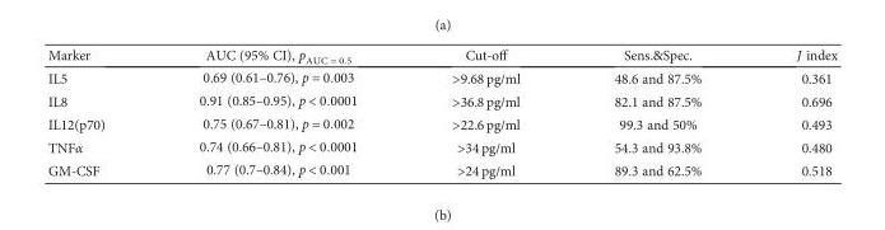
<table><thead><tr><td>Marker</td><td>AUC (95% CI), p<sub>AUC = 0.5</sub></td><td>Cut-off</td><td>Sens.&amp;Spec.</td><td>J index</td></tr></thead><tbody><tr><td>IL5</td><td>0.69 (0.61–0.76), p = 0 003</td><td>&gt;9.68 pg/ml</td><td>48.6 and 87.5%</td><td>0.361</td></tr><tr><td>IL8</td><td>0.91 (0.85–0.95), p &lt; 0 0001</td><td>&gt;36.8 pg/ml</td><td>82.1 and 87.5%</td><td>0.696</td></tr><tr><td>IL12(p70)</td><td>0.75 (0.67–0.81), p = 0 002</td><td>&gt;22.6 pg/ml</td><td>99.3 and 50%</td><td>0.493</td></tr><tr><td>TNFα</td><td>0.74 (0.66–0.81), p &lt; 0 0001</td><td>&gt;34 pg/ml</td><td>54.3 and 93.8%</td><td>0.480</td></tr><tr><td>GM-CSF</td><td>0.77 (0.7–0.84), p &lt; 0 001</td><td>&gt;24 pg/ml</td><td>89.3 and 62.5%</td><td>0.518</td></tr></tbody></table>